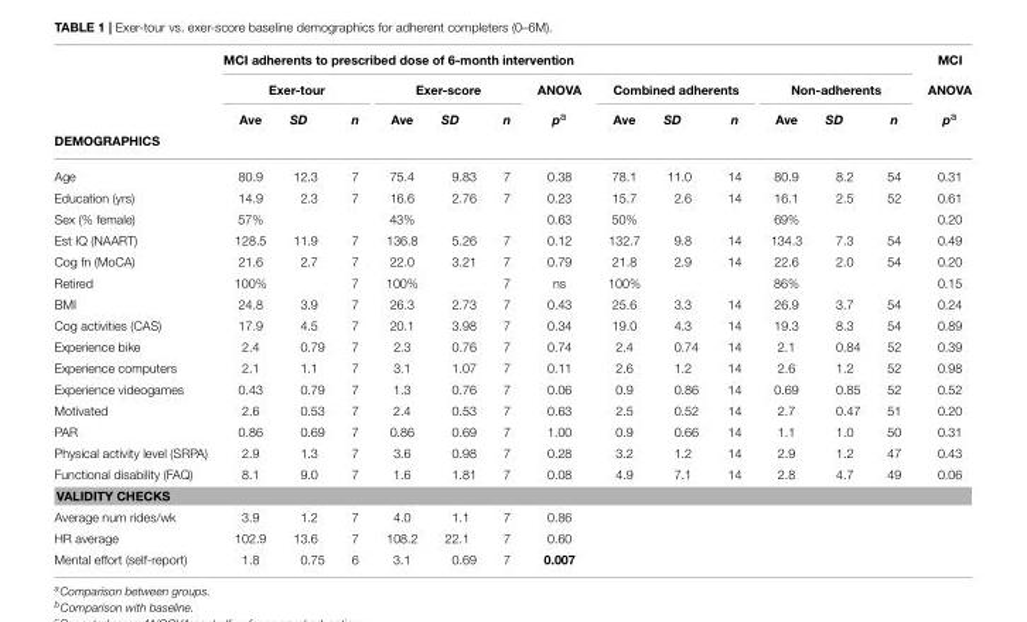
<table><thead><tr><td rowspan="3"></td><td colspan="13">MCI adherents to prescribed dose of 6-month intervention</td><td rowspan="3">MCI ANOVA p<sup>a</sup></td></tr><tr><td colspan="3">Exer-tour</td><td colspan="3">Exer-score</td><td rowspan="2">ANOVA p<sup>a</sup></td><td colspan="3">Combined adherents</td><td colspan="3">Non-adherents</td></tr><tr><td>Ave</td><td>SD</td><td>n</td><td>Ave</td><td>SD</td><td>n</td><td>Ave</td><td>SD</td><td>n</td><td>Ave</td><td>SD</td><td>n</td></tr><tr><td colspan="15">DEMOGRAPHICS</td></tr></thead><tbody><tr><td>Age</td><td>80.9</td><td>12.3</td><td>7</td><td>75.4</td><td>9.83</td><td>7</td><td>0.38</td><td>78.1</td><td>11.0</td><td>14</td><td>80.9</td><td>8.2</td><td>54</td><td>0.31</td></tr><tr><td>Education (yrs)</td><td>14.9</td><td>2.3</td><td>7</td><td>16.6</td><td>2.76</td><td>7</td><td>0.23</td><td>15.7</td><td>2.6</td><td>14</td><td>16.1</td><td>2.5</td><td>52</td><td>0.61</td></tr><tr><td>Sex (% female)</td><td>57%</td><td></td><td></td><td>43%</td><td></td><td></td><td>0.63</td><td>50%</td><td></td><td></td><td>69%</td><td></td><td></td><td>0.20</td></tr><tr><td>Est IQ (NAART)</td><td>128.5</td><td>11.9</td><td>7</td><td>136.8</td><td>5.26</td><td>7</td><td>0.12</td><td>132.7</td><td>9.8</td><td>14</td><td>134.3</td><td>7.3</td><td>54</td><td>0.49</td></tr><tr><td>Cog fn (MoCA)</td><td>21.6</td><td>2.7</td><td>7</td><td>22.0</td><td>3.21</td><td>7</td><td>0.79</td><td>21.8</td><td>2.9</td><td>14</td><td>22.6</td><td>2.0</td><td>54</td><td>0.20</td></tr><tr><td>Retired</td><td>100%</td><td></td><td>7</td><td>100%</td><td></td><td>7</td><td>ns</td><td>100%</td><td></td><td></td><td>86%</td><td></td><td></td><td>0.15</td></tr><tr><td>BMI</td><td>24.8</td><td>3.9</td><td>7</td><td>26.3</td><td>2.73</td><td>7</td><td>0.43</td><td>25.6</td><td>3.3</td><td>14</td><td>26.9</td><td>3.7</td><td>54</td><td>0.24</td></tr><tr><td>Cog activities (CAS)</td><td>17.9</td><td>4.5</td><td>7</td><td>20.1</td><td>3.98</td><td>7</td><td>0.34</td><td>19.0</td><td>4.3</td><td>14</td><td>19.3</td><td>8.3</td><td>54</td><td>0.89</td></tr><tr><td>Experience bike</td><td>2.4</td><td>0.79</td><td>7</td><td>2.3</td><td>0.76</td><td>7</td><td>0.74</td><td>2.4</td><td>0.74</td><td>14</td><td>2.1</td><td>0.84</td><td>52</td><td>0.39</td></tr><tr><td>Experience computers</td><td>2.1</td><td>1.1</td><td>7</td><td>3.1</td><td>1.07</td><td>7</td><td>0.11</td><td>2.6</td><td>1.2</td><td>14</td><td>2.6</td><td>1.2</td><td>52</td><td>0.98</td></tr><tr><td>Experience videogames</td><td>0.43</td><td>0.79</td><td>7</td><td>1.3</td><td>0.76</td><td>7</td><td>0.06</td><td>0.9</td><td>0.86</td><td>14</td><td>0.69</td><td>0.85</td><td>52</td><td>0.52</td></tr><tr><td>Motivated</td><td>2.6</td><td>0.53</td><td>7</td><td>2.4</td><td>0.53</td><td>7</td><td>0.63</td><td>2.5</td><td>0.52</td><td>14</td><td>2.7</td><td>0.47</td><td>51</td><td>0.20</td></tr><tr><td>PAR</td><td>0.86</td><td>0.69</td><td>7</td><td>0.86</td><td>0.69</td><td>7</td><td>1.00</td><td>0.9</td><td>0.66</td><td>14</td><td>1.1</td><td>1.0</td><td>50</td><td>0.31</td></tr><tr><td>Physical activity level (SRPA)</td><td>2.9</td><td>1.3</td><td>7</td><td>3.6</td><td>0.98</td><td>7</td><td>0.28</td><td>3.2</td><td>1.2</td><td>14</td><td>2.9</td><td>1.2</td><td>47</td><td>0.43</td></tr><tr><td>Functional disability (FAQ)</td><td>8.1</td><td>9.0</td><td>7</td><td>1.6</td><td>1.81</td><td>7</td><td>0.08</td><td>4.9</td><td>7.1</td><td>14</td><td>2.8</td><td>4.7</td><td>49</td><td>0.06</td></tr><tr><td colspan="15">VALIDITY CHECKS</td></tr><tr><td>Average num rides/wk</td><td>3.9</td><td>1.2</td><td>7</td><td>4.0</td><td>1.1</td><td>7</td><td>0.86</td><td></td><td></td><td></td><td></td><td></td><td></td><td></td></tr><tr><td>HR average</td><td>102.9</td><td>13.6</td><td>7</td><td>108.2</td><td>22.1</td><td>7</td><td>0.60</td><td></td><td></td><td></td><td></td><td></td><td></td><td></td></tr><tr><td>Mental effort (self-report)</td><td>1.8</td><td>0.75</td><td>6</td><td>3.1</td><td>0.69</td><td>7</td><td>0.007</td><td></td><td></td><td></td><td></td><td></td><td></td><td></td></tr></tbody></table>